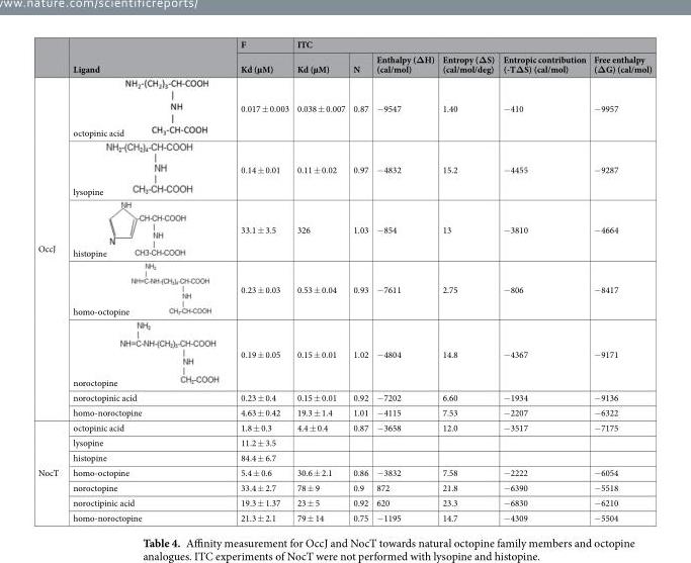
<table><thead><tr><td rowspan="2"></td><td rowspan="2">Ligand</td><td rowspan="2">F Kd (µM)</td><td colspan="6">ITC</td></tr><tr><td>Kd (µM)</td><td>N</td><td>Enthalpy (ΔH) (cal/mol)</td><td>Entropy (ΔS) (cal/mol/deg)</td><td>Entropic contribution (-TΔS) (cal/mol)</td><td>Free enthalpy (ΔG) (cal/mol)</td></tr></thead><tbody><tr><td rowspan="7">OccJ</td><td>octopinic acid</td><td>0.017 ± 0.003</td><td>0.038 ± 0.007</td><td>0.87</td><td>−9547</td><td>1.40</td><td>−410</td><td>−9957</td></tr><tr><td>lysopine</td><td>0.14 ± 0.01</td><td>0.11 ± 0.02</td><td>0.97</td><td>−4832</td><td>15.2</td><td>−4455</td><td>−9287</td></tr><tr><td>histopine</td><td>33.1 ± 3.5</td><td>326</td><td>1.03</td><td>−854</td><td>13</td><td>−3810</td><td>−4664</td></tr><tr><td>homo-octopine</td><td>0.23 ± 0.03</td><td>0.53 ± 0.04</td><td>0.93</td><td>−7611</td><td>2.75</td><td>−806</td><td>−8417</td></tr><tr><td>noroctopine</td><td>0.19 ± 0.05</td><td>0.15 ± 0.01</td><td>1.02</td><td>−4804</td><td>14.8</td><td>−4367</td><td>−9171</td></tr><tr><td>noroctopinic acid</td><td>0.23 ± 0.4</td><td>0.15 ± 0.01</td><td>0.92</td><td>−7202</td><td>6.60</td><td>−1934</td><td>−9136</td></tr><tr><td>homo-noroctopine</td><td>4.63 ± 0.42</td><td>19.3 ± 1.4</td><td>1.01</td><td>−4115</td><td>7.53</td><td>−2207</td><td>−6322</td></tr><tr><td rowspan="7">NocT</td><td>octopinic acid</td><td>1.8 ± 0.3</td><td>4.4 ± 0.4</td><td>0.87</td><td>−3658</td><td>12.0</td><td>−3517</td><td>−7175</td></tr><tr><td>lysopine</td><td>11.2 ± 3.5</td><td></td><td></td><td></td><td></td><td></td><td></td></tr><tr><td>histopine</td><td>84.4 ± 6.7</td><td></td><td></td><td></td><td></td><td></td><td></td></tr><tr><td>homo-octopine</td><td>5.4 ± 0.6</td><td>30.6 ± 2.1</td><td>0.86</td><td>−3832</td><td>7.58</td><td>−2222</td><td>−6054</td></tr><tr><td>noroctopine</td><td>33.4 ± 2.7</td><td>78 ± 9</td><td>0.9</td><td>872</td><td>21.8</td><td>−6390</td><td>−5518</td></tr><tr><td>noroctipinic acid</td><td>19.3 ± 1.37</td><td>23 ± 5</td><td>0.92</td><td>620</td><td>23.3</td><td>−6830</td><td>−6210</td></tr><tr><td>homo-noroctopine</td><td>21.3 ± 2.1</td><td>79 ± 14</td><td>0.75</td><td>−1195</td><td>14.7</td><td>−4309</td><td>−5504</td></tr></tbody></table>